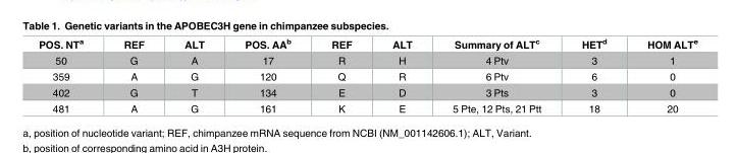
<table><thead><tr><td>POS. NT<sup>a</sup></td><td>REF</td><td>ALT</td><td>POS. AA<sup>b</sup></td><td>REF</td><td>ALT</td><td>Summary of ALT<sup>c</sup></td><td>HET<sup>d</sup></td><td>HOM ALT<sup>e</sup></td></tr></thead><tbody><tr><td>50</td><td>G</td><td>A</td><td>17</td><td>R</td><td>H</td><td>4 Ptv</td><td>3</td><td>1</td></tr><tr><td>359</td><td>A</td><td>G</td><td>120</td><td>Q</td><td>R</td><td>6 Ptv</td><td>6</td><td>0</td></tr><tr><td>402</td><td>G</td><td>T</td><td>134</td><td>E</td><td>D</td><td>3 Pts</td><td>3</td><td>0</td></tr><tr><td>481</td><td>A</td><td>G</td><td>161</td><td>K</td><td>E</td><td>5 Pte, 12 Pts, 21 Ptt</td><td>18</td><td>20</td></tr></tbody></table>